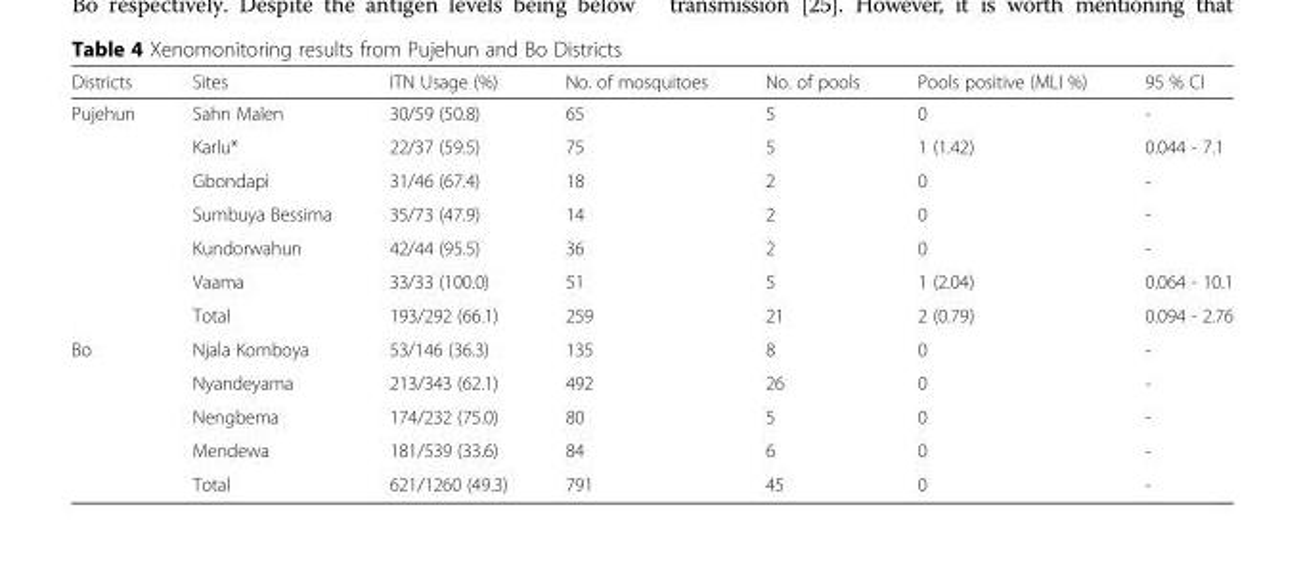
<table><thead><tr><td>Districts</td><td>Sites</td><td>ITN Usage (%)</td><td>No. of mosquitoes</td><td>No. of pools</td><td>Pools positive (MLI %)</td><td>95 % CI</td></tr></thead><tbody><tr><td rowspan="7">Pujehun</td><td>Sahn Malen</td><td>30/59 (50.8)</td><td>65</td><td>5</td><td>0</td><td>-</td></tr><tr><td>Karlu*</td><td>22/37 (59.5)</td><td>75</td><td>5</td><td>1 (1.42)</td><td>0.044 - 7.1</td></tr><tr><td>Gbondapi</td><td>31/46 (67.4)</td><td>18</td><td>2</td><td>0</td><td>-</td></tr><tr><td>Sumbuya Bessima</td><td>35/73 (47.9)</td><td>14</td><td>2</td><td>0</td><td>-</td></tr><tr><td>Kundorwahun</td><td>42/44 (95.5)</td><td>36</td><td>2</td><td>0</td><td>-</td></tr><tr><td>Vaama</td><td>33/33 (100.0)</td><td>51</td><td>5</td><td>1 (2.04)</td><td>0.064 - 10.1</td></tr><tr><td>Total</td><td>193/292 (66.1)</td><td>259</td><td>21</td><td>2 (0.79)</td><td>0.094 - 2.76</td></tr><tr><td rowspan="5">Bo</td><td>Njala Komboya</td><td>53/146 (36.3)</td><td>135</td><td>8</td><td>0</td><td>-</td></tr><tr><td>Nyandeyama</td><td>213/343 (62.1)</td><td>492</td><td>26</td><td>0</td><td>-</td></tr><tr><td>Nengbema</td><td>174/232 (75.0)</td><td>80</td><td>5</td><td>0</td><td>-</td></tr><tr><td>Mendewa</td><td>181/539 (33.6)</td><td>84</td><td>6</td><td>0</td><td>-</td></tr><tr><td>Total</td><td>621/1260 (49.3)</td><td>791</td><td>45</td><td>0</td><td>-</td></tr></tbody></table>